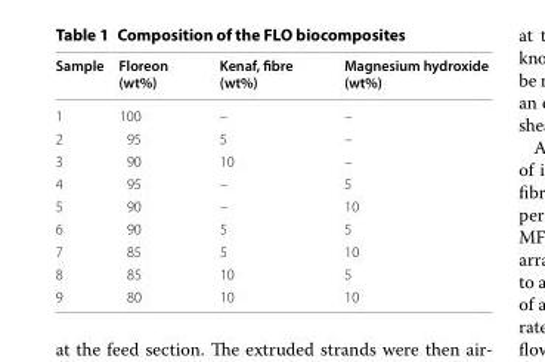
<table><thead><tr><td>Sample</td><td>Floreon (wt%)</td><td>Kenaf, fibre (wt%)</td><td>Magnesium hydroxide (wt%)</td></tr></thead><tbody><tr><td>1</td><td>100</td><td>–</td><td>–</td></tr><tr><td>2</td><td>95</td><td>5</td><td>–</td></tr><tr><td>3</td><td>90</td><td>10</td><td>–</td></tr><tr><td>4</td><td>95</td><td>–</td><td>5</td></tr><tr><td>5</td><td>90</td><td>–</td><td>10</td></tr><tr><td>6</td><td>90</td><td>5</td><td>5</td></tr><tr><td>7</td><td>85</td><td>5</td><td>10</td></tr><tr><td>8</td><td>85</td><td>10</td><td>5</td></tr><tr><td>9</td><td>80</td><td>10</td><td>10</td></tr></tbody></table>